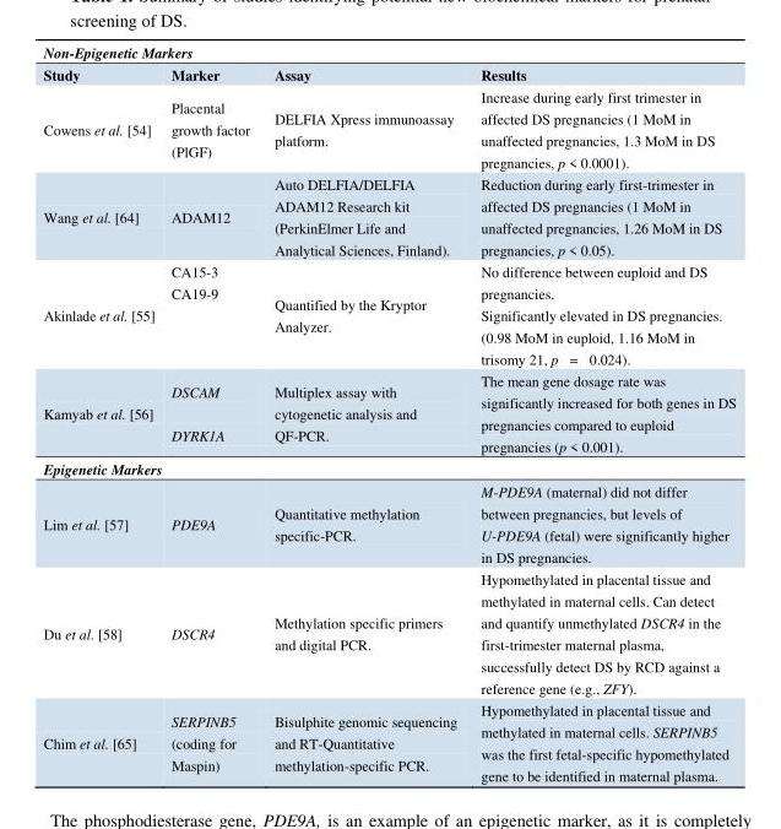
<table><thead><tr><td colspan="4">Non-Epigenetic Markers</td></tr><tr><td>Study</td><td>Marker</td><td>Assay</td><td>Results</td></tr></thead><tbody><tr><td>Cowens et al. [54]</td><td>Placental growth factor (PlGF)</td><td>DELFIA Xpress immunoassay platform.</td><td>Increase during early first trimester in affected DS pregnancies (1 MoM in unaffected pregnancies, 1.3 MoM in DS pregnancies, p &lt; 0.0001).</td></tr><tr><td>Wang et al. [64]</td><td>ADAM12</td><td>Auto DELFIA/DELFIA ADAM12 Research kit (PerkinElmer Life and Analytical Sciences, Finland).</td><td>Reduction during early first-trimester in affected DS pregnancies (1 MoM in unaffected pregnancies, 1.26 MoM in DS pregnancies, p &lt; 0.05).</td></tr><tr><td>Akinlade et al. [55]</td><td>CA15-3 CA19-9</td><td>Quantified by the Kryptor Analyzer.</td><td>No difference between euploid and DS pregnancies. Significantly elevated in DS pregnancies. (0.98 MoM in euploid, 1.16 MoM in trisomy 21, p = 0.024).</td></tr><tr><td>Kamyab et al. [56]</td><td>DSCAM DYRK1A</td><td>Multiplex assay with cytogenetic analysis and QF-PCR.</td><td>The mean gene dosage rate was significantly increased for both genes in DS pregnancies compared to euploid pregnancies (p &lt; 0.001).</td></tr><tr><td colspan="4">Epigenetic Markers</td></tr><tr><td>Lim et al. [57]</td><td>PDE9A</td><td>Quantitative methylation specific-PCR.</td><td>M-PDE9A (maternal) did not differ between pregnancies, but levels of U-PDE9A (fetal) were significantly higher in DS pregnancies.</td></tr><tr><td>Du et al. [58]</td><td>DSCR4</td><td>Methylation specific primers and digital PCR.</td><td>Hypomethylated in placental tissue and methylated in maternal cells. Can detect and quantify unmethylated DSCR4 in the first-trimester maternal plasma, successfully detect DS by RCD against a reference gene (e.g., ZFY).</td></tr><tr><td>Chim et al. [65]</td><td>SERPINB5 (coding for Maspin)</td><td>Bisulphite genomic sequencing and RT-Quantitative methylation-specific PCR.</td><td>Hypomethylated in placental tissue and methylated in maternal cells. SERPINB5 was the first fetal-specific hypomethylated gene to be identified in maternal plasma.</td></tr></tbody></table>